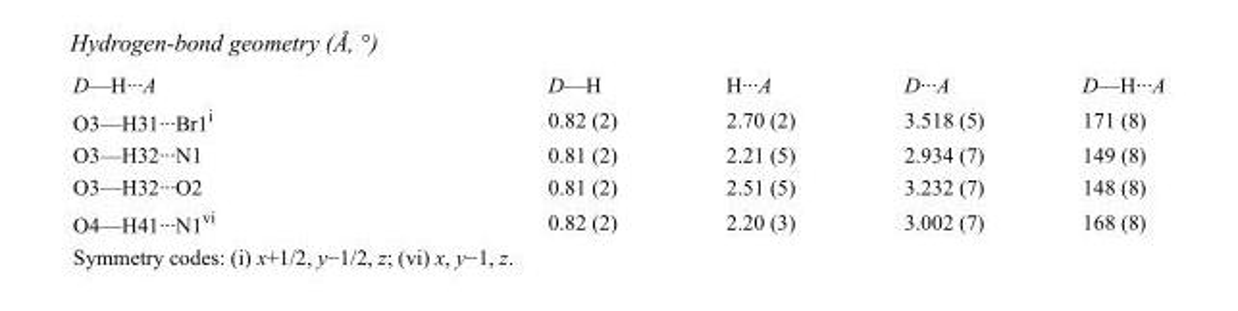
<table><tbody><tr><td>D—H···A</td><td>D—H</td><td>H···A</td><td>D···A</td><td>D—H···A</td></tr><tr><td>O3—H31···Br1<sup>i</sup></td><td>0.82 (2)</td><td>2.70 (2)</td><td>3.518 (5)</td><td>171 (8)</td></tr><tr><td>O3—H32···N1</td><td>0.81 (2)</td><td>2.21 (5)</td><td>2.934 (7)</td><td>149 (8)</td></tr><tr><td>O3—H32···O2</td><td>0.81 (2)</td><td>2.51 (5)</td><td>3.232 (7)</td><td>148 (8)</td></tr><tr><td>O4—H41···N1<sup>vi</sup></td><td>0.82 (2)</td><td>2.20 (3)</td><td>3.002 (7)</td><td>168 (8)</td></tr></tbody></table>